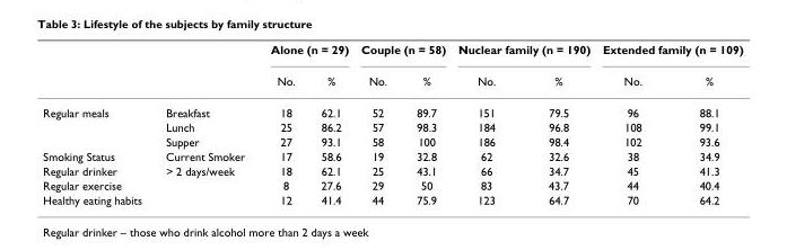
<table><thead><tr><td rowspan="2"></td><td rowspan="2"></td><td colspan="2">Alone (n = 29)</td><td colspan="2">Couple (n = 58)</td><td colspan="2">Nuclear family (n = 190)</td><td colspan="2">Extended family (n = 109)</td></tr><tr><td>No.</td><td>%</td><td>No.</td><td>%</td><td>No.</td><td>%</td><td>No.</td><td>%</td></tr></thead><tbody><tr><td rowspan="3">Regular meals</td><td>Breakfast</td><td>18</td><td>62.1</td><td>52</td><td>89.7</td><td>151</td><td>79.5</td><td>96</td><td>88.1</td></tr><tr><td>Lunch</td><td>25</td><td>86.2</td><td>57</td><td>98.3</td><td>184</td><td>96.8</td><td>108</td><td>99.1</td></tr><tr><td>Supper</td><td>27</td><td>93.1</td><td>58</td><td>100</td><td>186</td><td>98.4</td><td>102</td><td>93.6</td></tr><tr><td>Smoking Status</td><td>Current Smoker</td><td>17</td><td>58.6</td><td>19</td><td>32.8</td><td>62</td><td>32.6</td><td>38</td><td>34.9</td></tr><tr><td>Regular drinker</td><td>&gt; 2 days/week</td><td>18</td><td>62.1</td><td>25</td><td>43.1</td><td>66</td><td>34.7</td><td>45</td><td>41.3</td></tr><tr><td>Regular exercise</td><td></td><td>8</td><td>27.6</td><td>29</td><td>50</td><td>83</td><td>43.7</td><td>44</td><td>40.4</td></tr><tr><td>Healthy eating habits</td><td></td><td>12</td><td>41.4</td><td>44</td><td>75.9</td><td>123</td><td>64.7</td><td>70</td><td>64.2</td></tr></tbody></table>